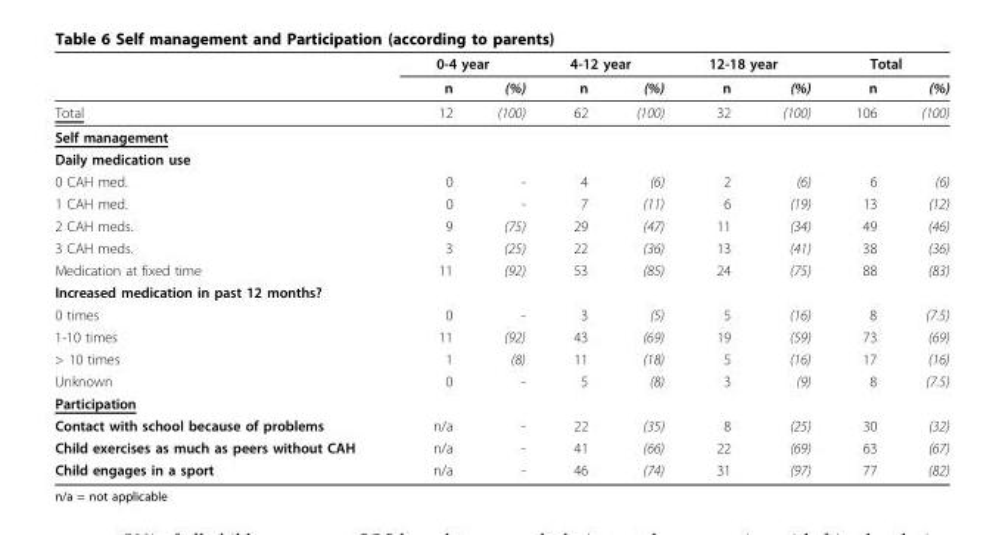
<table><thead><tr><td rowspan="2"></td><td colspan="2">0-4 year</td><td colspan="2">4-12 year</td><td colspan="2">12-18 year</td><td colspan="2">Total</td></tr><tr><td>n</td><td>(%)</td><td>n</td><td>(%)</td><td>n</td><td>(%)</td><td>n</td><td>(%)</td></tr></thead><tbody><tr><td>Total</td><td>12</td><td>(100)</td><td>62</td><td>(100)</td><td>32</td><td>(100)</td><td>106</td><td>(100)</td></tr><tr><td colspan="9">Self management</td></tr><tr><td colspan="9">Daily medication use</td></tr><tr><td>0 CAH med.</td><td>0</td><td>-</td><td>4</td><td>(6)</td><td>2</td><td>(6)</td><td>6</td><td>(6)</td></tr><tr><td>1 CAH med.</td><td>0</td><td>-</td><td>7</td><td>(11)</td><td>6</td><td>(19)</td><td>13</td><td>(12)</td></tr><tr><td>2 CAH meds.</td><td>9</td><td>(75)</td><td>29</td><td>(47)</td><td>11</td><td>(34)</td><td>49</td><td>(46)</td></tr><tr><td>3 CAH meds.</td><td>3</td><td>(25)</td><td>22</td><td>(36)</td><td>13</td><td>(41)</td><td>38</td><td>(36)</td></tr><tr><td>Medication at fixed time</td><td>11</td><td>(92)</td><td>53</td><td>(85)</td><td>24</td><td>(75)</td><td>88</td><td>(83)</td></tr><tr><td colspan="9">Increased medication in past 12 months?</td></tr><tr><td>0 times</td><td>0</td><td>-</td><td>3</td><td>(5)</td><td>5</td><td>(16)</td><td>8</td><td>(7.5)</td></tr><tr><td>1-10 times</td><td>11</td><td>(92)</td><td>43</td><td>(69)</td><td>19</td><td>(59)</td><td>73</td><td>(69)</td></tr><tr><td>&gt; 10 times</td><td>1</td><td>(8)</td><td>11</td><td>(18)</td><td>5</td><td>(16)</td><td>17</td><td>(16)</td></tr><tr><td>Unknown</td><td>0</td><td>-</td><td>5</td><td>(8)</td><td>3</td><td>(9)</td><td>8</td><td>(7.5)</td></tr><tr><td colspan="9">Participation</td></tr><tr><td>Contact with school because of problems</td><td>n/a</td><td>-</td><td>22</td><td>(35)</td><td>8</td><td>(25)</td><td>30</td><td>(32)</td></tr><tr><td>Child exercises as much as peers without CAH</td><td>n/a</td><td>-</td><td>41</td><td>(66)</td><td>22</td><td>(69)</td><td>63</td><td>(67)</td></tr><tr><td>Child engages in a sport</td><td>n/a</td><td>-</td><td>46</td><td>(74)</td><td>31</td><td>(97)</td><td>77</td><td>(82)</td></tr></tbody></table>